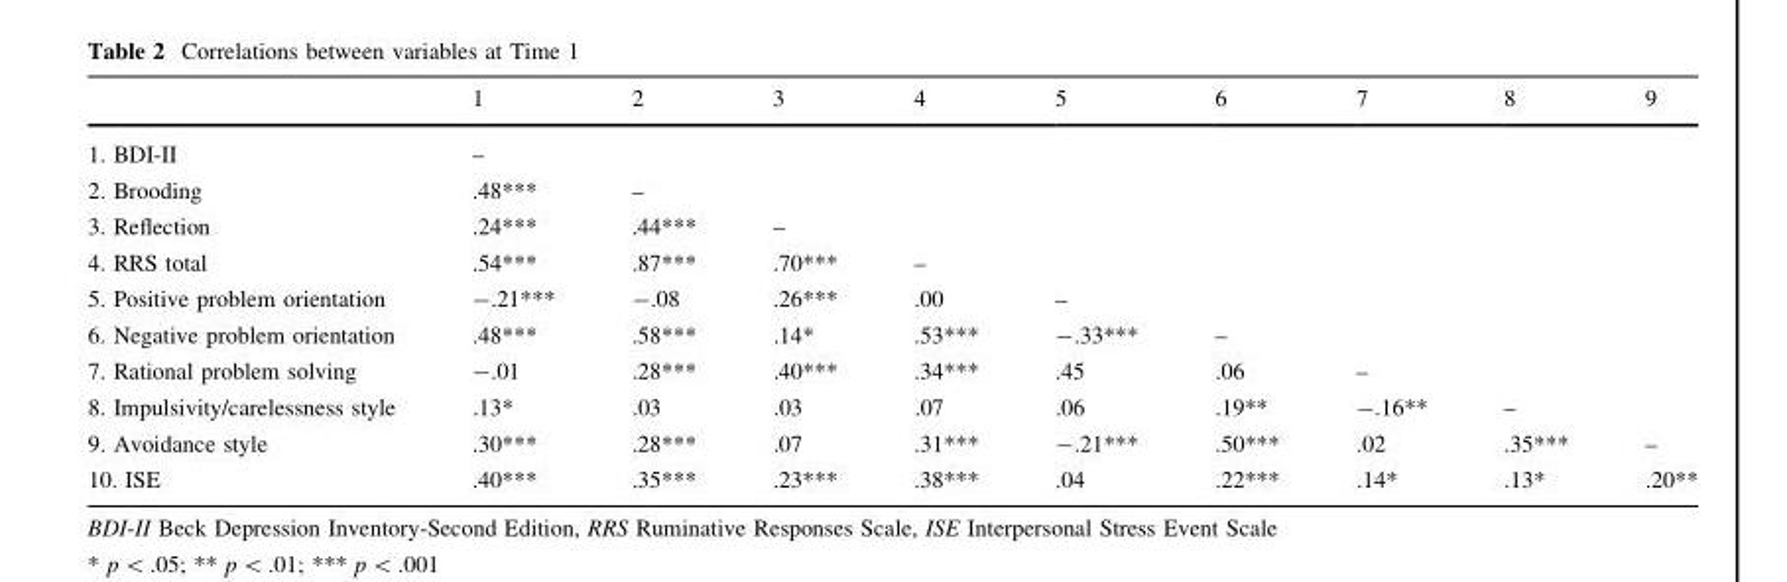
<table><thead><tr><td></td><td>1</td><td>2</td><td>3</td><td>4</td><td>5</td><td>6</td><td>7</td><td>8</td><td>9</td></tr></thead><tbody><tr><td>1. BDI-II</td><td>–</td><td></td><td></td><td></td><td></td><td></td><td></td><td></td><td></td></tr><tr><td>2. Brooding</td><td>.48***</td><td>–</td><td></td><td></td><td></td><td></td><td></td><td></td><td></td></tr><tr><td>3. Reflection</td><td>.24***</td><td>.44***</td><td>–</td><td></td><td></td><td></td><td></td><td></td><td></td></tr><tr><td>4. RRS total</td><td>.54***</td><td>.87***</td><td>.70***</td><td>–</td><td></td><td></td><td></td><td></td><td></td></tr><tr><td>5. Positive problem orientation</td><td>-.21***</td><td>-.08</td><td>.26***</td><td>.00</td><td>–</td><td></td><td></td><td></td><td></td></tr><tr><td>6. Negative problem orientation</td><td>.48***</td><td>.58***</td><td>.14*</td><td>.53***</td><td>-.33***</td><td>–</td><td></td><td></td><td></td></tr><tr><td>7. Rational problem solving</td><td>-.01</td><td>.28***</td><td>.40***</td><td>.34***</td><td>.45</td><td>.06</td><td>–</td><td></td><td></td></tr><tr><td>8. Impulsivity/carelessness style</td><td>.13*</td><td>.03</td><td>.03</td><td>.07</td><td>.06</td><td>.19**</td><td>-.16**</td><td>–</td><td></td></tr><tr><td>9. Avoidance style</td><td>.30***</td><td>.28***</td><td>.07</td><td>.31***</td><td>-.21***</td><td>.50***</td><td>.02</td><td>.35***</td><td>–</td></tr><tr><td>10. ISE</td><td>.40***</td><td>.35***</td><td>.23***</td><td>.38***</td><td>.04</td><td>.22***</td><td>.14*</td><td>.13*</td><td>.20**</td></tr></tbody></table>